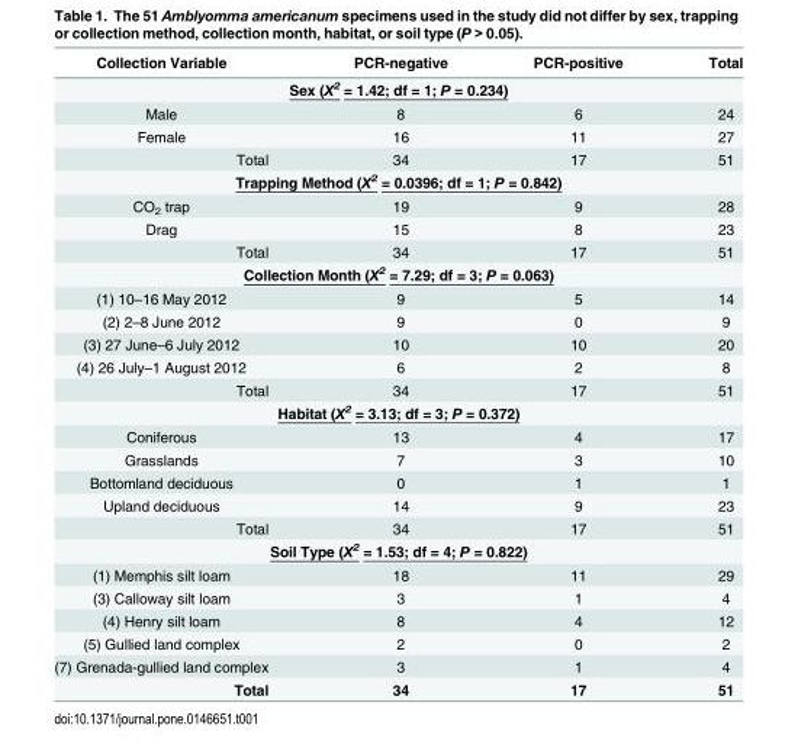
<table><thead><tr><td>Collection Variable</td><td>PCR-negative</td><td>PCR-positive</td><td>Total</td></tr></thead><tbody><tr><td colspan="4">Sex (X<sup>2</sup> = 1.42; df = 1; P = 0.234)</td></tr><tr><td>Male</td><td>8</td><td>6</td><td>24</td></tr><tr><td>Female</td><td>16</td><td>11</td><td>27</td></tr><tr><td>Total</td><td>34</td><td>17</td><td>51</td></tr><tr><td colspan="4">Trapping Method (X<sup>2</sup> = 0.0396; df = 1; P = 0.842)</td></tr><tr><td>CO<sub>2</sub> trap</td><td>19</td><td>9</td><td>28</td></tr><tr><td>Drag</td><td>15</td><td>8</td><td>23</td></tr><tr><td>Total</td><td>34</td><td>17</td><td>51</td></tr><tr><td colspan="4">Collection Month (X<sup>2</sup> = 7.29; df = 3; P = 0.063)</td></tr><tr><td>(1) 10–16 May 2012</td><td>9</td><td>5</td><td>14</td></tr><tr><td>(2) 2–8 June 2012</td><td>9</td><td>0</td><td>9</td></tr><tr><td>(3) 27 June–6 July 2012</td><td>10</td><td>10</td><td>20</td></tr><tr><td>(4) 26 July–1 August 2012</td><td>6</td><td>2</td><td>8</td></tr><tr><td>Total</td><td>34</td><td>17</td><td>51</td></tr><tr><td colspan="4">Habitat (X<sup>2</sup> = 3.13; df = 3; P = 0.372)</td></tr><tr><td>Coniferous</td><td>13</td><td>4</td><td>17</td></tr><tr><td>Grasslands</td><td>7</td><td>3</td><td>10</td></tr><tr><td>Bottomland deciduous</td><td>0</td><td>1</td><td>1</td></tr><tr><td>Upland deciduous</td><td>14</td><td>9</td><td>23</td></tr><tr><td>Total</td><td>34</td><td>17</td><td>51</td></tr><tr><td colspan="4">Soil Type (X<sup>2</sup> = 1.53; df = 4; P = 0.822)</td></tr><tr><td>(1) Memphis silt loam</td><td>18</td><td>11</td><td>29</td></tr><tr><td>(3) Calloway silt loam</td><td>3</td><td>1</td><td>4</td></tr><tr><td>(4) Henry silt loam</td><td>8</td><td>4</td><td>12</td></tr><tr><td>(5) Gullied land complex</td><td>2</td><td>0</td><td>2</td></tr><tr><td>(7) Grenada-gullied land complex</td><td>3</td><td>1</td><td>4</td></tr><tr><td>Total</td><td>34</td><td>17</td><td>51</td></tr></tbody></table>